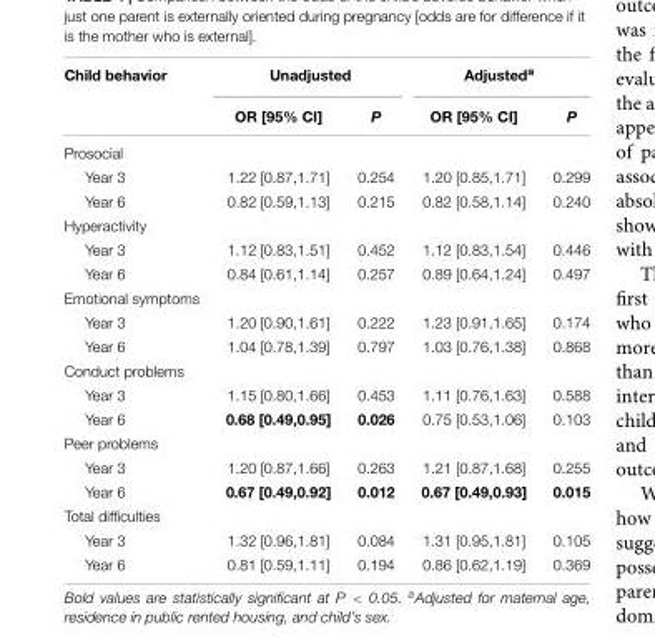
<table><thead><tr><td rowspan="2">Child behavior</td><td colspan="2">Unadjusted</td><td colspan="2">Adjusted<sup>a</sup></td></tr><tr><td>OR [95% CI]</td><td>P</td><td>OR [95% CI]</td><td>P</td></tr></thead><tbody><tr><td colspan="5">Prosocial</td></tr><tr><td>Year 3</td><td>1.22 [0.87,1.71]</td><td>0.254</td><td>1.20 [0.85,1.71]</td><td>0.299</td></tr><tr><td>Year 6</td><td>0.82 [0.59,1.13]</td><td>0.215</td><td>0.82 [0.58,1.14]</td><td>0.240</td></tr><tr><td colspan="5">Hyperactivity</td></tr><tr><td>Year 3</td><td>1.12 [0.83,1.51]</td><td>0.452</td><td>1.12 [0.83,1.54]</td><td>0.446</td></tr><tr><td>Year 6</td><td>0.84 [0.61,1.14]</td><td>0.257</td><td>0.89 [0.64,1.24]</td><td>0.497</td></tr><tr><td colspan="5">Emotional symptoms</td></tr><tr><td>Year 3</td><td>1.20 [0.90,1.61]</td><td>0.222</td><td>1.23 [0.91,1.65]</td><td>0.174</td></tr><tr><td>Year 6</td><td>1.04 [0.78,1.39]</td><td>0.797</td><td>1.03 [0.76,1.38]</td><td>0.868</td></tr><tr><td colspan="5">Conduct problems</td></tr><tr><td>Year 3</td><td>1.15 [0.80,1.66]</td><td>0.453</td><td>1.11 [0.76,1.63]</td><td>0.588</td></tr><tr><td>Year 6</td><td>0.68 [0.49,0.95]</td><td>0.026</td><td>0.75 [0.53,1.06]</td><td>0.103</td></tr><tr><td colspan="5">Peer problems</td></tr><tr><td>Year 3</td><td>1.20 [0.87,1.66]</td><td>0.263</td><td>1.21 [0.87,1.68]</td><td>0.255</td></tr><tr><td>Year 6</td><td>0.67 [0.49,0.92]</td><td>0.012</td><td>0.67 [0.49,0.93]</td><td>0.015</td></tr><tr><td colspan="5">Total difficulties</td></tr><tr><td>Year 3</td><td>1.32 [0.96,1.81]</td><td>0.084</td><td>1.31 [0.95,1.81]</td><td>0.105</td></tr><tr><td>Year 6</td><td>0.81 [0.59,1.11]</td><td>0.194</td><td>0.86 [0.62,1.19]</td><td>0.369</td></tr></tbody></table>